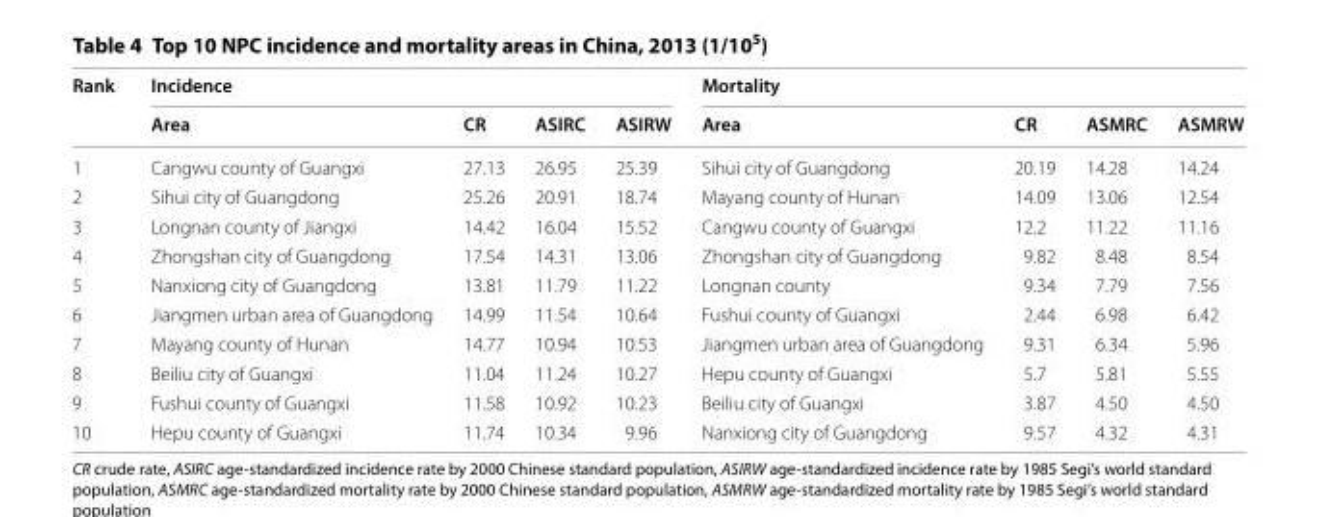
<table><thead><tr><td rowspan="2">Rank</td><td colspan="4">Incidence</td><td colspan="4">Mortality</td></tr><tr><td>Area</td><td>CR</td><td>ASIRC</td><td>ASIRW</td><td>Area</td><td>CR</td><td>ASMRC</td><td>ASMRW</td></tr></thead><tbody><tr><td>1</td><td>Cangwu county of Guangxi</td><td>27.13</td><td>26.95</td><td>25.39</td><td>Sihui city of Guangdong</td><td>20.19</td><td>14.28</td><td>14.24</td></tr><tr><td>2</td><td>Sihui city of Guangdong</td><td>25.26</td><td>20.91</td><td>18.74</td><td>Mayang county of Hunan</td><td>14.09</td><td>13.06</td><td>12.54</td></tr><tr><td>3</td><td>Longnan county of Jiangxi</td><td>14.42</td><td>16.04</td><td>15.52</td><td>Cangwu county of Guangxi</td><td>12.2</td><td>11.22</td><td>11.16</td></tr><tr><td>4</td><td>Zhongshan city of Guangdong</td><td>17.54</td><td>14.31</td><td>13.06</td><td>Zhongshan city of Guangdong</td><td>9.82</td><td>8.48</td><td>8.54</td></tr><tr><td>5</td><td>Nanxiong city of Guangdong</td><td>13.81</td><td>11.79</td><td>11.22</td><td>Longnan county</td><td>9.34</td><td>7.79</td><td>7.56</td></tr><tr><td>6</td><td>Jiangmen urban area of Guangdong</td><td>14.99</td><td>11.54</td><td>10.64</td><td>Fushui county of Guangxi</td><td>2.44</td><td>6.98</td><td>6.42</td></tr><tr><td>7</td><td>Mayang county of Hunan</td><td>14.77</td><td>10.94</td><td>10.53</td><td>Jiangmen urban area of Guangdong</td><td>9.31</td><td>6.34</td><td>5.96</td></tr><tr><td>8</td><td>Beiliu city of Guangxi</td><td>11.04</td><td>11.24</td><td>10.27</td><td>Hepu county of Guangxi</td><td>5.7</td><td>5.81</td><td>5.55</td></tr><tr><td>9</td><td>Fushui county of Guangxi</td><td>11.58</td><td>10.92</td><td>10.23</td><td>Beiliu city of Guangxi</td><td>3.87</td><td>4.50</td><td>4.50</td></tr><tr><td>10</td><td>Hepu county of Guangxi</td><td>11.74</td><td>10.34</td><td>9.96</td><td>Nanxiong city of Guangdong</td><td>9.57</td><td>4.32</td><td>4.31</td></tr></tbody></table>